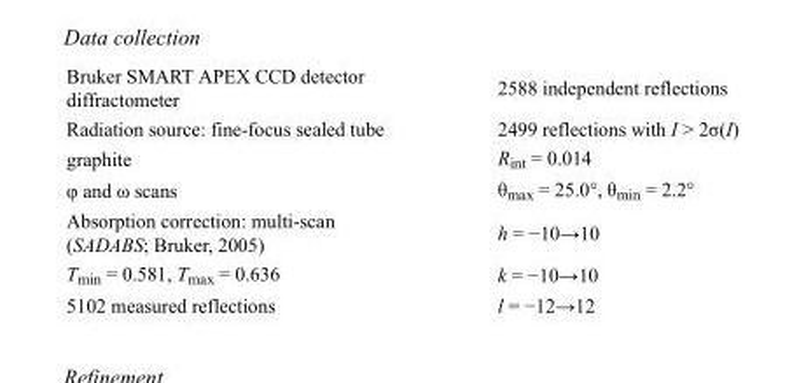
<table><tbody><tr><td>Bruker SMART APEX CCD detector diffractometer</td><td>2588 independent reflections</td></tr><tr><td>Radiation source: fine-focus sealed tube</td><td>2499 reflections with I &gt; 2σ(I)</td></tr><tr><td>graphite</td><td>R<sub>int</sub> = 0.014</td></tr><tr><td>φ and ω scans</td><td>θ<sub>max</sub> = 25.0°, θ<sub>min</sub> = 2.2°</td></tr><tr><td>Absorption correction: multi-scan (SADABS; Bruker, 2005)</td><td>h = −10→10</td></tr><tr><td>T<sub>min</sub> = 0.581, T<sub>max</sub> = 0.636</td><td>k = −10→10</td></tr><tr><td>5102 measured reflections</td><td>l = −12→12</td></tr></tbody></table>